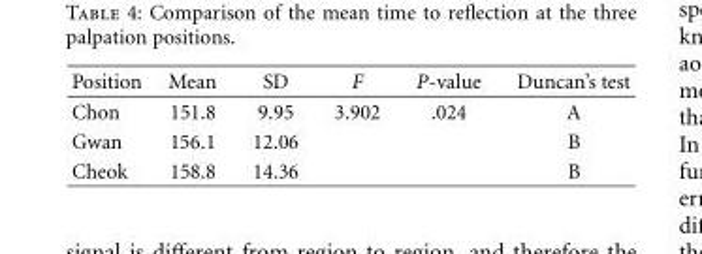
<table><thead><tr><td>Position</td><td>Mean</td><td>SD</td><td>F</td><td>P-value</td><td>Duncan’s test</td></tr></thead><tbody><tr><td>Chon</td><td>151.8</td><td>9.95</td><td>3.902</td><td>.024</td><td>A</td></tr><tr><td>Gwan</td><td>156.1</td><td>12.06</td><td></td><td></td><td>B</td></tr><tr><td>Cheok</td><td>158.8</td><td>14.36</td><td></td><td></td><td>B</td></tr></tbody></table>